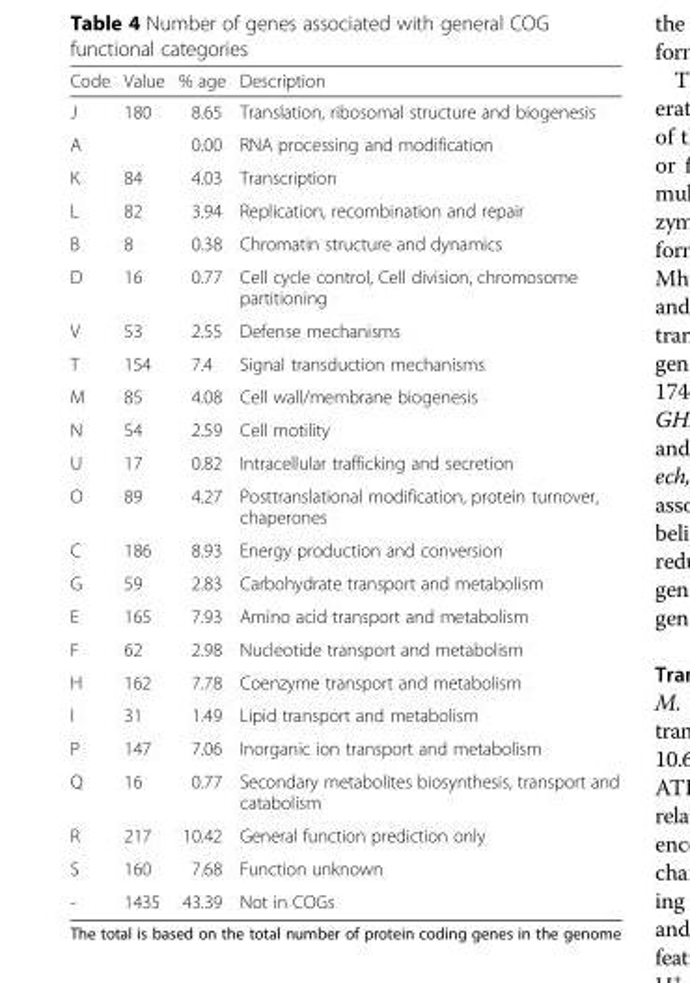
<table><thead><tr><td>Code</td><td>Value</td><td>% age</td><td>Description</td></tr></thead><tbody><tr><td>J</td><td>180</td><td>8.65</td><td>Translation, ribosomal structure and biogenesis</td></tr><tr><td>A</td><td></td><td>0.00</td><td>RNA processing and modification</td></tr><tr><td>K</td><td>84</td><td>4.03</td><td>Transcription</td></tr><tr><td>L</td><td>82</td><td>3.94</td><td>Replication, recombination and repair</td></tr><tr><td>B</td><td>8</td><td>0.38</td><td>Chromatin structure and dynamics</td></tr><tr><td>D</td><td>16</td><td>0.77</td><td>Cell cycle control, Cell division, chromosome partitioning</td></tr><tr><td>V</td><td>53</td><td>2.55</td><td>Defense mechanisms</td></tr><tr><td>T</td><td>154</td><td>7.4</td><td>Signal transduction mechanisms</td></tr><tr><td>M</td><td>85</td><td>4.08</td><td>Cell wall/membrane biogenesis</td></tr><tr><td>N</td><td>54</td><td>2.59</td><td>Cell motility</td></tr><tr><td>U</td><td>17</td><td>0.82</td><td>Intracellular trafficking and secretion</td></tr><tr><td>O</td><td>89</td><td>4.27</td><td>Posttranslational modification, protein turnover, chaperones</td></tr><tr><td>C</td><td>186</td><td>8.93</td><td>Energy production and conversion</td></tr><tr><td>G</td><td>59</td><td>2.83</td><td>Carbohydrate transport and metabolism</td></tr><tr><td>E</td><td>165</td><td>7.93</td><td>Amino acid transport and metabolism</td></tr><tr><td>F</td><td>62</td><td>2.98</td><td>Nucleotide transport and metabolism</td></tr><tr><td>H</td><td>162</td><td>7.78</td><td>Coenzyme transport and metabolism</td></tr><tr><td>I</td><td>31</td><td>1.49</td><td>Lipid transport and metabolism</td></tr><tr><td>P</td><td>147</td><td>7.06</td><td>Inorganic ion transport and metabolism</td></tr><tr><td>Q</td><td>16</td><td>0.77</td><td>Secondary metabolites biosynthesis, transport and catabolism</td></tr><tr><td>R</td><td>217</td><td>10.42</td><td>General function prediction only</td></tr><tr><td>S</td><td>160</td><td>7.68</td><td>Function unknown</td></tr><tr><td>-</td><td>1435</td><td>43.39</td><td>Not in COGs</td></tr></tbody></table>